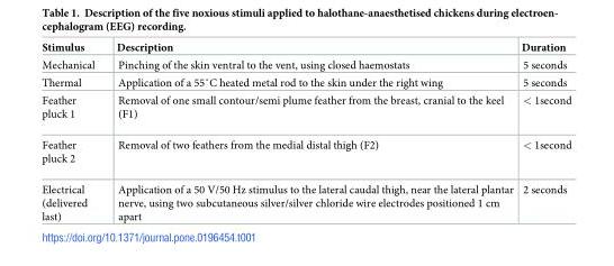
<table><thead><tr><td>Stimulus</td><td>Description</td><td>Duration</td></tr></thead><tbody><tr><td>Mechanical</td><td>Pinching of the skin ventral to the vent, using closed haemostats</td><td>5 seconds</td></tr><tr><td>Thermal</td><td>Application of a 55˚C heated metal rod to the skin under the right wing</td><td>5 seconds</td></tr><tr><td>Feather pluck 1</td><td>Removal of one small contour/semi plume feather from the breast, cranial to the keel (F1)</td><td>&lt; 1second</td></tr><tr><td>Feather pluck 2</td><td>Removal of two feathers from the medial distal thigh (F2)</td><td>&lt; 1second</td></tr><tr><td>Electrical (delivered last)</td><td>Application of a 50 V/50 Hz stimulus to the lateral caudal thigh, near the lateral plantar nerve, using two subcutaneous silver/silver chloride wire electrodes positioned 1 cm apart</td><td>2 seconds</td></tr></tbody></table>